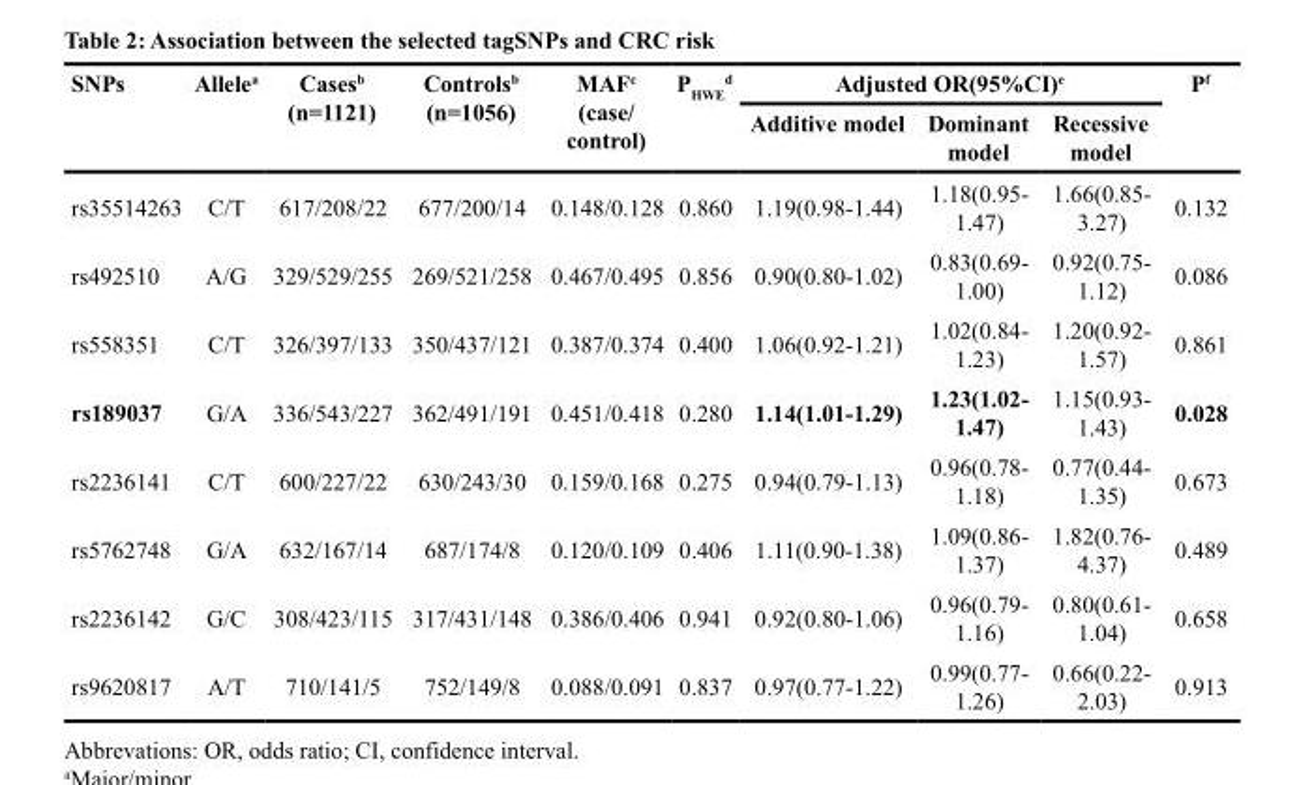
<table><thead><tr><td rowspan="2">SNPs</td><td rowspan="2">Allele<sup>a</sup></td><td rowspan="2">Cases<sup>b</sup> (n=1121)</td><td rowspan="2">Controls<sup>b</sup> (n=1056)</td><td rowspan="2">MAF<sup>c</sup> (case/ control)</td><td rowspan="2">P<sub>HWE</sub> <sup>d</sup></td><td colspan="3">Adjusted OR(95%CI)<sup>e</sup></td><td rowspan="2">P<sup>f</sup></td></tr><tr><td>Additive model</td><td>Dominant model</td><td>Recessive model</td></tr></thead><tbody><tr><td>rs35514263</td><td>C/T</td><td>617/208/22</td><td>677/200/14</td><td>0.148/0.128</td><td>0.860</td><td>1.19(0.98-1.44)</td><td>1.18(0.95- 1.47)</td><td>1.66(0.85- 3.27)</td><td>0.132</td></tr><tr><td>rs492510</td><td>A/G</td><td>329/529/255</td><td>269/521/258</td><td>0.467/0.495</td><td>0.856</td><td>0.90(0.80-1.02)</td><td>0.83(0.69- 1.00)</td><td>0.92(0.75- 1.12)</td><td>0.086</td></tr><tr><td>rs558351</td><td>C/T</td><td>326/397/133</td><td>350/437/121</td><td>0.387/0.374</td><td>0.400</td><td>1.06(0.92-1.21)</td><td>1.02(0.84- 1.23)</td><td>1.20(0.92- 1.57)</td><td>0.861</td></tr><tr><td>rs189037</td><td>G/A</td><td>336/543/227</td><td>362/491/191</td><td>0.451/0.418</td><td>0.280</td><td>1.14(1.01-1.29)</td><td>1.23(1.02- 1.47)</td><td>1.15(0.93- 1.43)</td><td>0.028</td></tr><tr><td>rs2236141</td><td>C/T</td><td>600/227/22</td><td>630/243/30</td><td>0.159/0.168</td><td>0.275</td><td>0.94(0.79-1.13)</td><td>0.96(0.78- 1.18)</td><td>0.77(0.44- 1.35)</td><td>0.673</td></tr><tr><td>rs5762748</td><td>G/A</td><td>632/167/14</td><td>687/174/8</td><td>0.120/0.109</td><td>0.406</td><td>1.11(0.90-1.38)</td><td>1.09(0.86- 1.37)</td><td>1.82(0.76- 4.37)</td><td>0.489</td></tr><tr><td>rs2236142</td><td>G/C</td><td>308/423/115</td><td>317/431/148</td><td>0.386/0.406</td><td>0.941</td><td>0.92(0.80-1.06)</td><td>0.96(0.79- 1.16)</td><td>0.80(0.61- 1.04)</td><td>0.658</td></tr><tr><td>rs9620817</td><td>A/T</td><td>710/141/5</td><td>752/149/8</td><td>0.088/0.091</td><td>0.837</td><td>0.97(0.77-1.22)</td><td>0.99(0.77- 1.26)</td><td>0.66(0.22- 2.03)</td><td>0.913</td></tr></tbody></table>